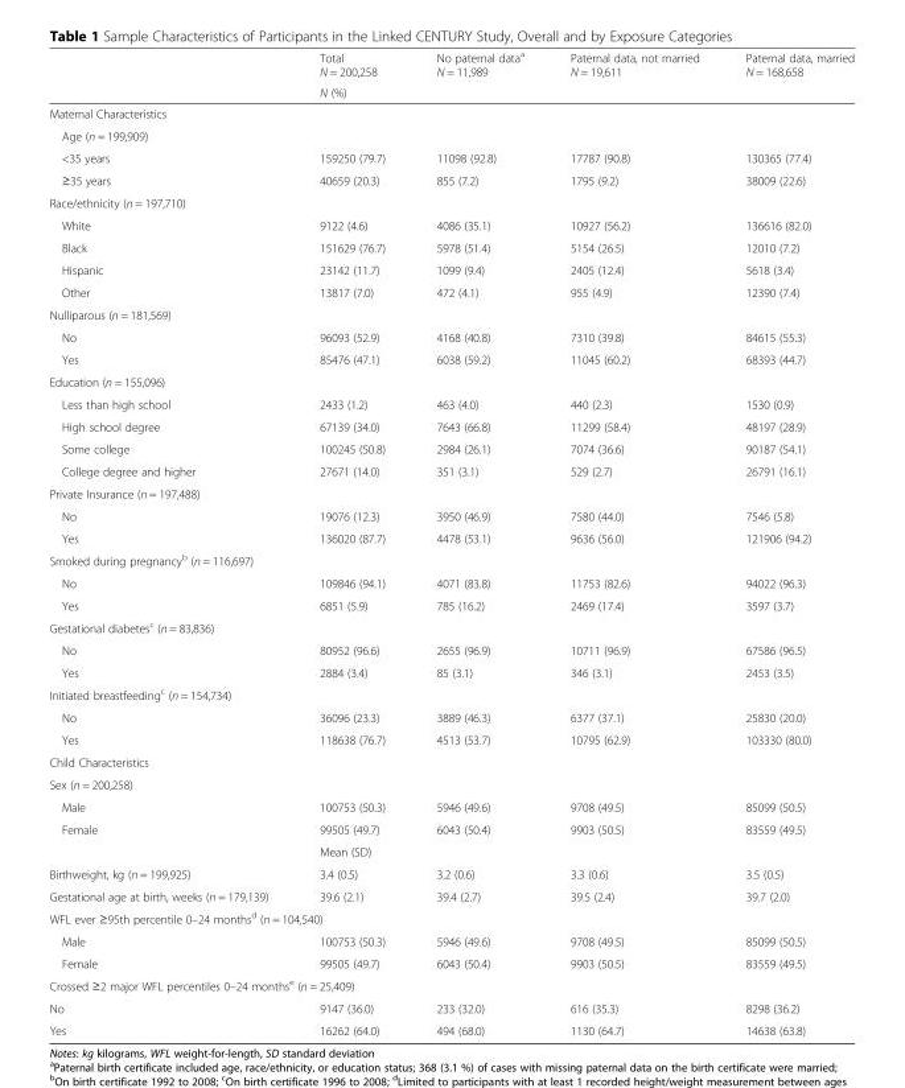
<table><thead><tr><td rowspan="2"></td><td>Total N = 200,258</td><td>No paternal data<sup>a</sup> N = 11,989</td><td>Paternal data, not married N = 19,611</td><td>Paternal data, married N = 168,658</td></tr><tr><td colspan="4">N (%)</td></tr></thead><tbody><tr><td colspan="5">Maternal Characteristics</td></tr><tr><td colspan="5">Age (n = 199,909)</td></tr><tr><td>&lt;35 years</td><td>159250 (79.7)</td><td>11098 (92.8)</td><td>17787 (90.8)</td><td>130365 (77.4)</td></tr><tr><td>≥35 years</td><td>40659 (20.3)</td><td>855 (7.2)</td><td>1795 (9.2)</td><td>38009 (22.6)</td></tr><tr><td colspan="5">Race/ethnicity (n = 197,710)</td></tr><tr><td>White</td><td>9122 (4.6)</td><td>4086 (35.1)</td><td>10927 (56.2)</td><td>136616 (82.0)</td></tr><tr><td>Black</td><td>151629 (76.7)</td><td>5978 (51.4)</td><td>5154 (26.5)</td><td>12010 (7.2)</td></tr><tr><td>Hispanic</td><td>23142 (11.7)</td><td>1099 (9.4)</td><td>2405 (12.4)</td><td>5618 (3.4)</td></tr><tr><td>Other</td><td>13817 (7.0)</td><td>472 (4.1)</td><td>955 (4.9)</td><td>12390 (7.4)</td></tr><tr><td colspan="5">Nulliparous (n = 181,569)</td></tr><tr><td>No</td><td>96093 (52.9)</td><td>4168 (40.8)</td><td>7310 (39.8)</td><td>84615 (55.3)</td></tr><tr><td>Yes</td><td>85476 (47.1)</td><td>6038 (59.2)</td><td>11045 (60.2)</td><td>68393 (44.7)</td></tr><tr><td colspan="5">Education (n = 155,096)</td></tr><tr><td>Less than high school</td><td>2433 (1.2)</td><td>463 (4.0)</td><td>440 (2.3)</td><td>1530 (0.9)</td></tr><tr><td>High school degree</td><td>67139 (34.0)</td><td>7643 (66.8)</td><td>11299 (58.4)</td><td>48197 (28.9)</td></tr><tr><td>Some college</td><td>100245 (50.8)</td><td>2984 (26.1)</td><td>7074 (36.6)</td><td>90187 (54.1)</td></tr><tr><td>College degree and higher</td><td>27671 (14.0)</td><td>351 (3.1)</td><td>529 (2.7)</td><td>26791 (16.1)</td></tr><tr><td colspan="5">Private Insurance (n = 197,488)</td></tr><tr><td>No</td><td>19076 (12.3)</td><td>3950 (46.9)</td><td>7580 (44.0)</td><td>7546 (5.8)</td></tr><tr><td>Yes</td><td>136020 (87.7)</td><td>4478 (53.1)</td><td>9636 (56.0)</td><td>121906 (94.2)</td></tr><tr><td colspan="5">Smoked during pregnancy<sup>b</sup> (n = 116,697)</td></tr><tr><td>No</td><td>109846 (94.1)</td><td>4071 (83.8)</td><td>11753 (82.6)</td><td>94022 (96.3)</td></tr><tr><td>Yes</td><td>6851 (5.9)</td><td>785 (16.2)</td><td>2469 (17.4)</td><td>3597 (3.7)</td></tr><tr><td colspan="5">Gestational diabetes<sup>c</sup> (n = 83,836)</td></tr><tr><td>No</td><td>80952 (96.6)</td><td>2655 (96.9)</td><td>10711 (96.9)</td><td>67586 (96.5)</td></tr><tr><td>Yes</td><td>2884 (3.4)</td><td>85 (3.1)</td><td>346 (3.1)</td><td>2453 (3.5)</td></tr><tr><td colspan="5">Initiated breastfeeding<sup>c</sup> (n = 154,734)</td></tr><tr><td>No</td><td>36096 (23.3)</td><td>3889 (46.3)</td><td>6377 (37.1)</td><td>25830 (20.0)</td></tr><tr><td>Yes</td><td>118638 (76.7)</td><td>4513 (53.7)</td><td>10795 (62.9)</td><td>103330 (80.0)</td></tr><tr><td colspan="5">Child Characteristics</td></tr><tr><td colspan="5">Sex (n = 200,258)</td></tr><tr><td>Male</td><td>100753 (50.3)</td><td>5946 (49.6)</td><td>9708 (49.5)</td><td>85099 (50.5)</td></tr><tr><td rowspan="2">Female</td><td>99505 (49.7)</td><td>6043 (50.4)</td><td>9903 (50.5)</td><td>83559 (49.5)</td></tr><tr><td colspan="4">Mean (SD)</td></tr><tr><td>Birthweight, kg (n = 199,925)</td><td>3.4 (0.5)</td><td>3.2 (0.6)</td><td>3.3 (0.6)</td><td>3.5 (0.5)</td></tr><tr><td>Gestational age at birth, weeks (n = 179,139)</td><td>39.6 (2.1)</td><td>39.4 (2.7)</td><td>39.5 (2.4)</td><td>39.7 (2.0)</td></tr><tr><td colspan="5">WFL ever ≥95th percentile 0–24 months<sup>d</sup> (n = 104,540)</td></tr><tr><td>Male</td><td>100753 (50.3)</td><td>5946 (49.6)</td><td>9708 (49.5)</td><td>85099 (50.5)</td></tr><tr><td>Female</td><td>99505 (49.7)</td><td>6043 (50.4)</td><td>9903 (50.5)</td><td>83559 (49.5)</td></tr><tr><td colspan="5">Crossed ≥2 major WFL percentiles 0–24 months<sup>e</sup> (n = 25,409)</td></tr><tr><td>No</td><td>9147 (36.0)</td><td>233 (32.0)</td><td>616 (35.3)</td><td>8298 (36.2)</td></tr><tr><td>Yes</td><td>16262 (64.0)</td><td>494 (68.0)</td><td>1130 (64.7)</td><td>14638 (63.8)</td></tr></tbody></table>